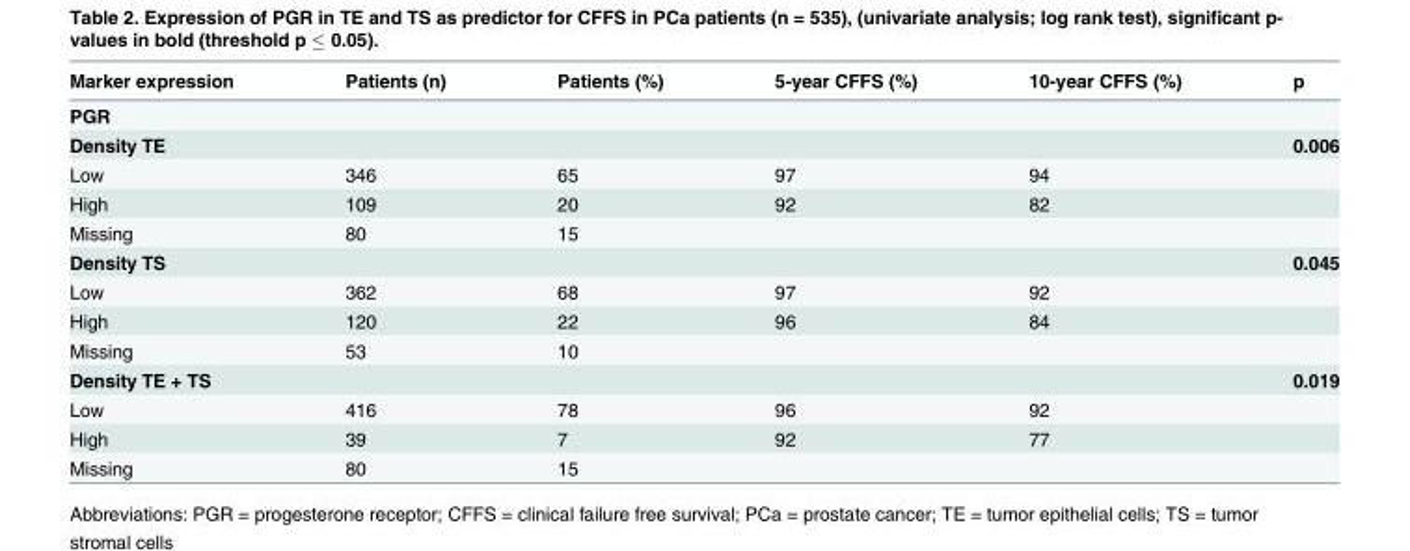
<table><thead><tr><td>Marker expression</td><td>Patients (n)</td><td>Patients (%)</td><td>5-year CFFS (%)</td><td>10-year CFFS (%)</td><td>p</td></tr></thead><tbody><tr><td colspan="6">PGR</td></tr><tr><td>Density TE</td><td></td><td></td><td></td><td></td><td>0.006</td></tr><tr><td>Low</td><td>346</td><td>65</td><td>97</td><td>94</td><td></td></tr><tr><td>High</td><td>109</td><td>20</td><td>92</td><td>82</td><td></td></tr><tr><td>Missing</td><td>80</td><td>15</td><td></td><td></td><td></td></tr><tr><td>Density TS</td><td></td><td></td><td></td><td></td><td>0.045</td></tr><tr><td>Low</td><td>362</td><td>68</td><td>97</td><td>92</td><td></td></tr><tr><td>High</td><td>120</td><td>22</td><td>96</td><td>84</td><td></td></tr><tr><td>Missing</td><td>53</td><td>10</td><td></td><td></td><td></td></tr><tr><td>Density TE + TS</td><td></td><td></td><td></td><td></td><td>0.019</td></tr><tr><td>Low</td><td>416</td><td>78</td><td>96</td><td>92</td><td></td></tr><tr><td>High</td><td>39</td><td>7</td><td>92</td><td>77</td><td></td></tr><tr><td>Missing</td><td>80</td><td>15</td><td></td><td></td><td></td></tr></tbody></table>